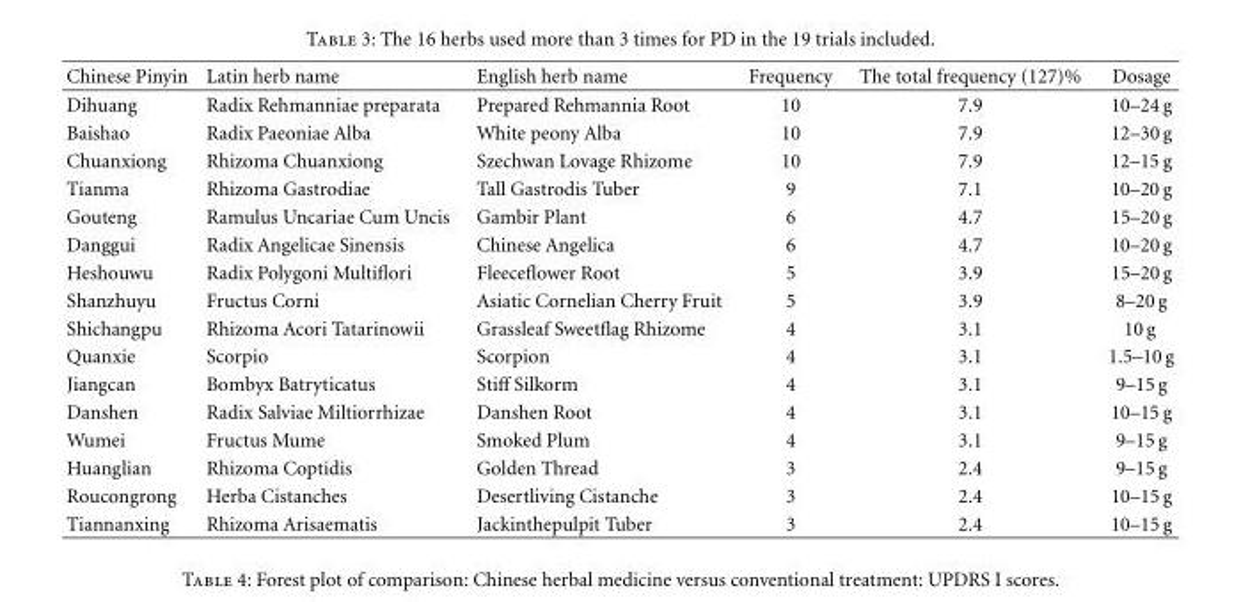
<table><thead><tr><td>Chinese Pinyin</td><td>Latin herb name</td><td>English herb name</td><td>Frequency</td><td>The total frequency (127)%</td><td>Dosage</td></tr></thead><tbody><tr><td>Dihuang</td><td>Radix Rehmanniae preparata</td><td>Prepared Rehmannia Root</td><td>10</td><td>7.9</td><td>10–24 g</td></tr><tr><td>Baishao</td><td>Radix Paeoniae Alba</td><td>White peony Alba</td><td>10</td><td>7.9</td><td>12–30 g</td></tr><tr><td>Chuanxiong</td><td>Rhizoma Chuanxiong</td><td>Szechwan Lovage Rhizome</td><td>10</td><td>7.9</td><td>12–15 g</td></tr><tr><td>Tianma</td><td>Rhizoma Gastrodiae</td><td>Tall Gastrodis Tuber</td><td>9</td><td>7.1</td><td>10–20 g</td></tr><tr><td>Gouteng</td><td>Ramulus Uncariae Cum Uncis</td><td>Gambir Plant</td><td>6</td><td>4.7</td><td>15–20 g</td></tr><tr><td>Danggui</td><td>Radix Angelicae Sinensis</td><td>Chinese Angelica</td><td>6</td><td>4.7</td><td>10–20 g</td></tr><tr><td>Heshouwu</td><td>Radix Polygoni Multiflori</td><td>Fleeceflower Root</td><td>5</td><td>3.9</td><td>15–20 g</td></tr><tr><td>Shanzhuyu</td><td>Fructus Corni</td><td>Asiatic Cornelian Cherry Fruit</td><td>5</td><td>3.9</td><td>8–20 g</td></tr><tr><td>Shichangpu</td><td>Rhizoma Acori Tatarinowii</td><td>Grassleaf Sweetflag Rhizome</td><td>4</td><td>3.1</td><td>10 g</td></tr><tr><td>Quanxie</td><td>Scorpio</td><td>Scorpion</td><td>4</td><td>3.1</td><td>1.5–10 g</td></tr><tr><td>Jiangcan</td><td>Bombyx Batryticatus</td><td>Stiff Silkorm</td><td>4</td><td>3.1</td><td>9–15 g</td></tr><tr><td>Danshen</td><td>Radix Salviae Miltiorrhizae</td><td>Danshen Root</td><td>4</td><td>3.1</td><td>10–15 g</td></tr><tr><td>Wumei</td><td>Fructus Mume</td><td>Smoked Plum</td><td>4</td><td>3.1</td><td>9–15 g</td></tr><tr><td>Huanglian</td><td>Rhizoma Coptidis</td><td>Golden Thread</td><td>3</td><td>2.4</td><td>9–15 g</td></tr><tr><td>Roucongrong</td><td>Herba Cistanches</td><td>Desertliving Cistanche</td><td>3</td><td>2.4</td><td>10–15 g</td></tr><tr><td>Tiannanxing</td><td>Rhizoma Arisaematis</td><td>Jackinthepulpit Tuber</td><td>3</td><td>2.4</td><td>10–15 g</td></tr></tbody></table>